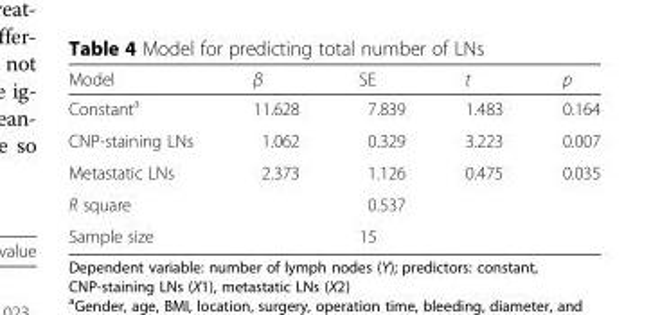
<table><thead><tr><td>Model</td><td>β</td><td>SE</td><td>t</td><td>p</td></tr></thead><tbody><tr><td>Constant<sup>a</sup></td><td>11.628</td><td>7.839</td><td>1.483</td><td>0.164</td></tr><tr><td>CNP-staining LNs</td><td>1.062</td><td>0.329</td><td>3.223</td><td>0.007</td></tr><tr><td>Metastatic LNs</td><td>2.373</td><td>1.126</td><td>0.475</td><td>0.035</td></tr><tr><td>R square</td><td></td><td>0.537</td><td></td><td></td></tr><tr><td>Sample size</td><td></td><td>15</td><td></td><td></td></tr></tbody></table>